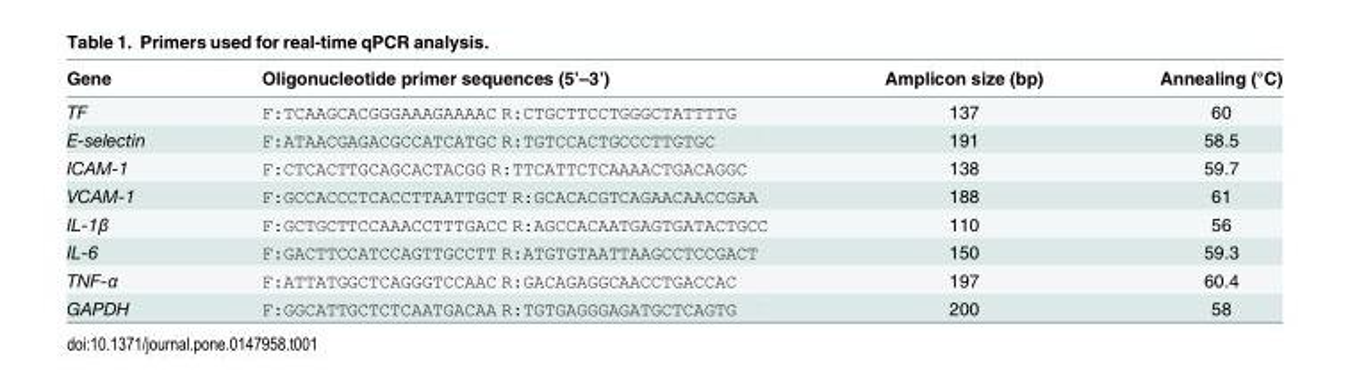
<table><thead><tr><td>Gene</td><td>Oligonucleotide primer sequences (5’–3’)</td><td>Amplicon size (bp)</td><td>Annealing (°C)</td></tr></thead><tbody><tr><td>TF</td><td>F:TCAAGCACGGGAAAGAAAAC R:CTGCTTCCTGGGCTATTTTG</td><td>137</td><td>60</td></tr><tr><td>E-selectin</td><td>F:ATAACGAGACGCCATCATGC R:TGTCCACTGCCCTTGTGC</td><td>191</td><td>58.5</td></tr><tr><td>ICAM-1</td><td>F:CTCACTTGCAGCACTACGG R:TTCATTCTCAAAACTGACAGGC</td><td>138</td><td>59.7</td></tr><tr><td>VCAM-1</td><td>F:GCCACCCTCACCTTAATTGCT R:GCACACGTCAGAACAACCGAA</td><td>188</td><td>61</td></tr><tr><td>IL-1β</td><td>F:GCTGCTTCCAAACCTTTGACC R:AGCCACAATGAGTGATACTGCC</td><td>110</td><td>56</td></tr><tr><td>IL-6</td><td>F:GACTTCCATCCAGTTGCCTT R:ATGTGTAATTAAGCCTCCGACT</td><td>150</td><td>59.3</td></tr><tr><td>TNF-α</td><td>F:ATTATGGCTCAGGGTCCAAC R:GACAGAGGCAACCTGACCAC</td><td>197</td><td>60.4</td></tr><tr><td>GAPDH</td><td>F:GGCATTGCTCTCAATGACAA R:TGTGAGGGAGATGCTCAGTG</td><td>200</td><td>58</td></tr></tbody></table>